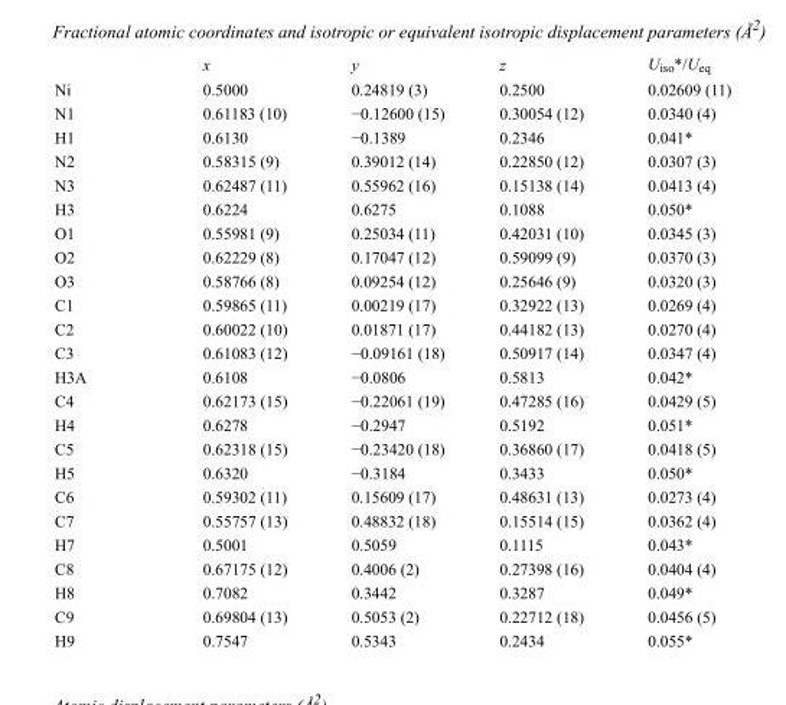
<table><thead><tr><td></td><td>x</td><td>y</td><td>z</td><td>U<sub>iso</sub>*/U<sub>eq</sub></td></tr></thead><tbody><tr><td>Ni</td><td>0.5000</td><td>0.24819 (3)</td><td>0.2500</td><td>0.02609 (11)</td></tr><tr><td>N1</td><td>0.61183 (10)</td><td>−0.12600 (15)</td><td>0.30054 (12)</td><td>0.0340 (4)</td></tr><tr><td>H1</td><td>0.6130</td><td>−0.1389</td><td>0.2346</td><td>0.041*</td></tr><tr><td>N2</td><td>0.58315 (9)</td><td>0.39012 (14)</td><td>0.22850 (12)</td><td>0.0307 (3)</td></tr><tr><td>N3</td><td>0.62487 (11)</td><td>0.55962 (16)</td><td>0.15138 (14)</td><td>0.0413 (4)</td></tr><tr><td>H3</td><td>0.6224</td><td>0.6275</td><td>0.1088</td><td>0.050*</td></tr><tr><td>O1</td><td>0.55981 (9)</td><td>0.25034 (11)</td><td>0.42031 (10)</td><td>0.0345 (3)</td></tr><tr><td>O2</td><td>0.62229 (8)</td><td>0.17047 (12)</td><td>0.59099 (9)</td><td>0.0370 (3)</td></tr><tr><td>O3</td><td>0.58766 (8)</td><td>0.09254 (12)</td><td>0.25646 (9)</td><td>0.0320 (3)</td></tr><tr><td>C1</td><td>0.59865 (11)</td><td>0.00219 (17)</td><td>0.32922 (13)</td><td>0.0269 (4)</td></tr><tr><td>C2</td><td>0.60022 (10)</td><td>0.01871 (17)</td><td>0.44182 (13)</td><td>0.0270 (4)</td></tr><tr><td>C3</td><td>0.61083 (12)</td><td>−0.09161 (18)</td><td>0.50917 (14)</td><td>0.0347 (4)</td></tr><tr><td>H3A</td><td>0.6108</td><td>−0.0806</td><td>0.5813</td><td>0.042*</td></tr><tr><td>C4</td><td>0.62173 (15)</td><td>−0.22061 (19)</td><td>0.47285 (16)</td><td>0.0429 (5)</td></tr><tr><td>H4</td><td>0.6278</td><td>−0.2947</td><td>0.5192</td><td>0.051*</td></tr><tr><td>C5</td><td>0.62318 (15)</td><td>−0.23420 (18)</td><td>0.36860 (17)</td><td>0.0418 (5)</td></tr><tr><td>H5</td><td>0.6320</td><td>−0.3184</td><td>0.3433</td><td>0.050*</td></tr><tr><td>C6</td><td>0.59302 (11)</td><td>0.15609 (17)</td><td>0.48631 (13)</td><td>0.0273 (4)</td></tr><tr><td>C7</td><td>0.55757 (13)</td><td>0.48832 (18)</td><td>0.15514 (15)</td><td>0.0362 (4)</td></tr><tr><td>H7</td><td>0.5001</td><td>0.5059</td><td>0.1115</td><td>0.043*</td></tr><tr><td>C8</td><td>0.67175 (12)</td><td>0.4006 (2)</td><td>0.27398 (16)</td><td>0.0404 (4)</td></tr><tr><td>H8</td><td>0.7082</td><td>0.3442</td><td>0.3287</td><td>0.049*</td></tr><tr><td>C9</td><td>0.69804 (13)</td><td>0.5053 (2)</td><td>0.22712 (18)</td><td>0.0456 (5)</td></tr><tr><td>H9</td><td>0.7547</td><td>0.5343</td><td>0.2434</td><td>0.055*</td></tr></tbody></table>